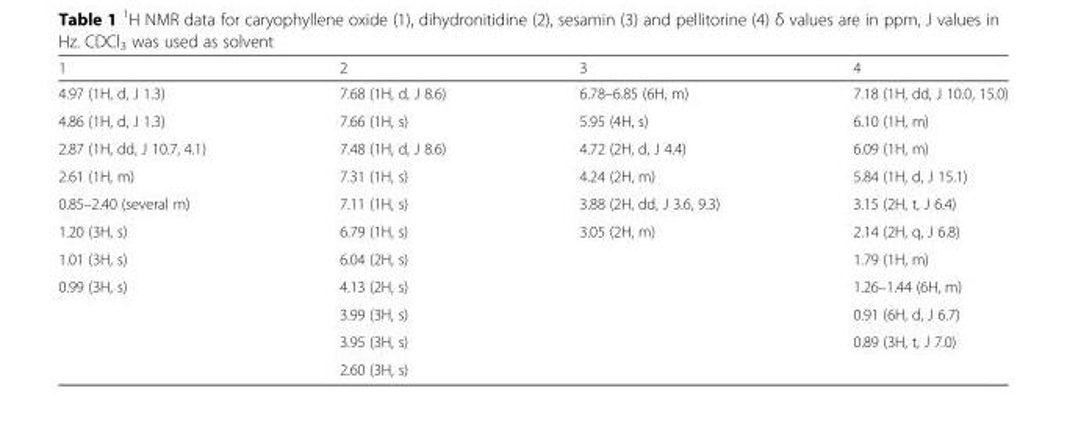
<table><thead><tr><td>1</td><td>2</td><td>3</td><td>4</td></tr></thead><tbody><tr><td>4.97 (1H, d, J 1.3)</td><td>7.68 (1H, d, J 8.6)</td><td>6.78–6.85 (6H, m)</td><td>7.18 (1H, dd, J 10.0, 15.0)</td></tr><tr><td>4.86 (1H, d, J 1.3)</td><td>7.66 (1H, s)</td><td>5.95 (4H, s)</td><td>6.10 (1H, m)</td></tr><tr><td>2.87 (1H, dd, J 10.7, 4.1)</td><td>7.48 (1H, d, J 8.6)</td><td>4.72 (2H, d, J 4.4)</td><td>6.09 (1H, m)</td></tr><tr><td>2.61 (1H, m)</td><td>7.31 (1H, s)</td><td>4.24 (2H, m)</td><td>5.84 (1H, d, J 15.1)</td></tr><tr><td>0.85–2.40 (several m)</td><td>7.11 (1H, s)</td><td>3.88 (2H, dd, J 3.6, 9.3)</td><td>3.15 (2H, t, J 6.4)</td></tr><tr><td>1.20 (3H, s)</td><td>6.79 (1H, s)</td><td>3.05 (2H, m)</td><td>2.14 (2H, q, J 6.8)</td></tr><tr><td>1.01 (3H, s)</td><td>6.04 (2H, s)</td><td></td><td>1.79 (1H, m)</td></tr><tr><td rowspan="4">0.99 (3H, s)</td><td>4.13 (2H, s)</td><td></td><td>1.26–1.44 (6H, m)</td></tr><tr><td>3.99 (3H, s)</td><td></td><td>0.91 (6H, d, J 6.7)</td></tr><tr><td>3.95 (3H, s)</td><td></td><td>0.89 (3H, t, J 7.0)</td></tr><tr><td>2.60 (3H, s)</td><td></td><td></td></tr></tbody></table>